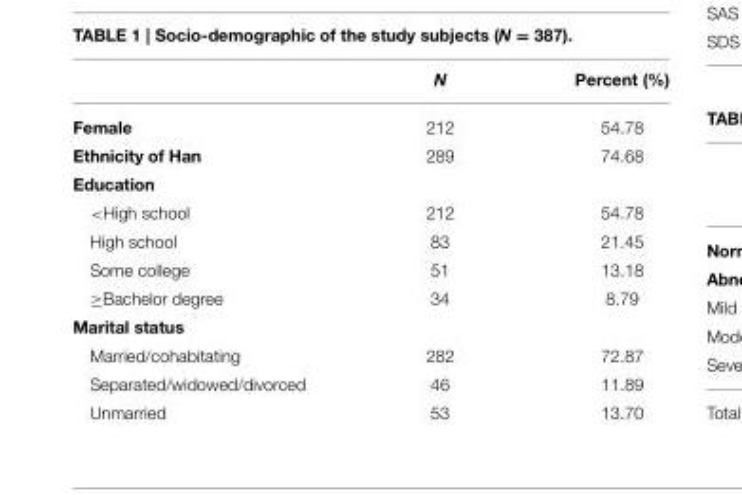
<table><thead><tr><td></td><td>N</td><td>Percent (%)</td></tr></thead><tbody><tr><td>Female</td><td>212</td><td>54.78</td></tr><tr><td>Ethnicity of Han</td><td>289</td><td>74.68</td></tr><tr><td colspan="3">Education</td></tr><tr><td>&lt;High school</td><td>212</td><td>54.78</td></tr><tr><td>High school</td><td>83</td><td>21.45</td></tr><tr><td>Some college</td><td>51</td><td>13.18</td></tr><tr><td>≥Bachelor degree</td><td>34</td><td>8.79</td></tr><tr><td colspan="3">Marital status</td></tr><tr><td>Married/cohabitating</td><td>282</td><td>72.87</td></tr><tr><td>Separated/widowed/divorced</td><td>46</td><td>11.89</td></tr><tr><td>Unmarried</td><td>53</td><td>13.70</td></tr></tbody></table>